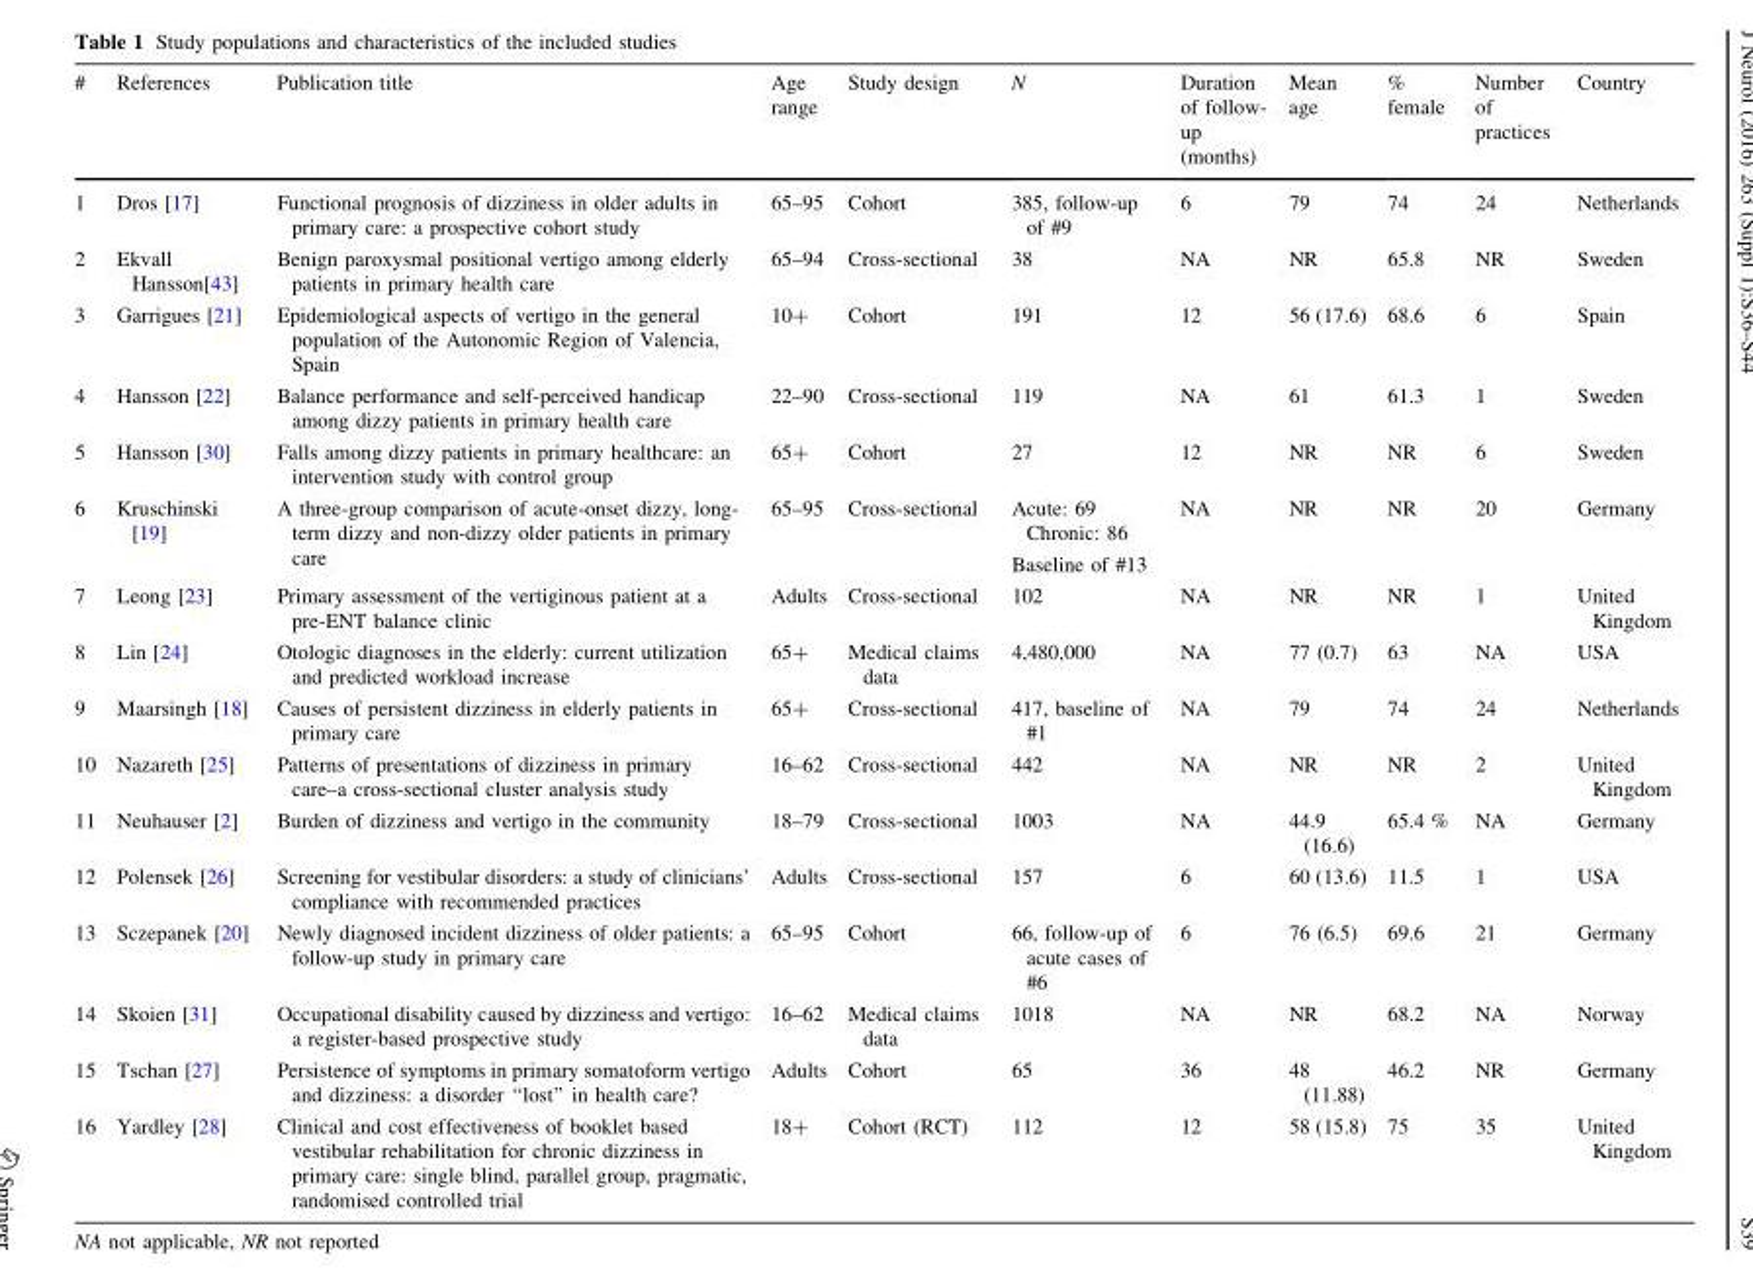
<table><thead><tr><td>#</td><td>References</td><td>Publication title</td><td>Age range</td><td>Study design</td><td>N</td><td>Duration of follow- up (months)</td><td>Mean age</td><td>% female</td><td>Number of practices</td><td>Country</td></tr></thead><tbody><tr><td>1</td><td>Dros [17]</td><td>Functional prognosis of dizziness in older adults in primary care: a prospective cohort study</td><td>65–95</td><td>Cohort</td><td>385, follow-up of #9</td><td>6</td><td>79</td><td>74</td><td>24</td><td>Netherlands</td></tr><tr><td>2</td><td>Ekvall Hansson[43]</td><td>Benign paroxysmal positional vertigo among elderly patients in primary health care</td><td>65–94</td><td>Cross-sectional</td><td>38</td><td>NA</td><td>NR</td><td>65.8</td><td>NR</td><td>Sweden</td></tr><tr><td>3</td><td>Garrigues [21]</td><td>Epidemiological aspects of vertigo in the general population of the Autonomic Region of Valencia, Spain</td><td>10+</td><td>Cohort</td><td>191</td><td>12</td><td>56 (17.6)</td><td>68.6</td><td>6</td><td>Spain</td></tr><tr><td>4</td><td>Hansson [22]</td><td>Balance performance and self-perceived handicap among dizzy patients in primary health care</td><td>22–90</td><td>Cross-sectional</td><td>119</td><td>NA</td><td>61</td><td>61.3</td><td>1</td><td>Sweden</td></tr><tr><td>5</td><td>Hansson [30]</td><td>Falls among dizzy patients in primary healthcare: an intervention study with control group</td><td>65+</td><td>Cohort</td><td>27</td><td>12</td><td>NR</td><td>NR</td><td>6</td><td>Sweden</td></tr><tr><td>6</td><td>Kruschinski [19]</td><td>A three-group comparison of acute-onset dizzy, long- term dizzy and non-dizzy older patients in primary care</td><td>65–95</td><td>Cross-sectional</td><td>Acute: 69 Chronic: 86 Baseline of #13</td><td>NA</td><td>NR</td><td>NR</td><td>20</td><td>Germany</td></tr><tr><td>7</td><td>Leong [23]</td><td>Primary assessment of the vertiginous patient at a pre-ENT balance clinic</td><td>Adults</td><td>Cross-sectional</td><td>102</td><td>NA</td><td>NR</td><td>NR</td><td>1</td><td>United Kingdom</td></tr><tr><td>8</td><td>Lin [24]</td><td>Otologic diagnoses in the elderly: current utilization and predicted workload increase</td><td>65+</td><td>Medical claims data</td><td>4,480,000</td><td>NA</td><td>77 (0.7)</td><td>63</td><td>NA</td><td>USA</td></tr><tr><td>9</td><td>Maarsingh [18]</td><td>Causes of persistent dizziness in elderly patients in primary care</td><td>65+</td><td>Cross-sectional</td><td>417, baseline of #1</td><td>NA</td><td>79</td><td>74</td><td>24</td><td>Netherlands</td></tr><tr><td>10</td><td>Nazareth [25]</td><td>Patterns of presentations of dizziness in primary care–a cross-sectional cluster analysis study</td><td>16–62</td><td>Cross-sectional</td><td>442</td><td>NA</td><td>NR</td><td>NR</td><td>2</td><td>United Kingdom</td></tr><tr><td>11</td><td>Neuhauser [2]</td><td>Burden of dizziness and vertigo in the community</td><td>18–79</td><td>Cross-sectional</td><td>1003</td><td>NA</td><td>44.9 (16.6)</td><td>65.4 %</td><td>NA</td><td>Germany</td></tr><tr><td>12</td><td>Polensek [26]</td><td>Screening for vestibular disorders: a study of clinicians’ compliance with recommended practices</td><td>Adults</td><td>Cross-sectional</td><td>157</td><td>6</td><td>60 (13.6)</td><td>11.5</td><td>1</td><td>USA</td></tr><tr><td>13</td><td>Sczepanek [20]</td><td>Newly diagnosed incident dizziness of older patients: a follow-up study in primary care</td><td>65–95</td><td>Cohort</td><td>66, follow-up of acute cases of #6</td><td>6</td><td>76 (6.5)</td><td>69.6</td><td>21</td><td>Germany</td></tr><tr><td>14</td><td>Skoien [31]</td><td>Occupational disability caused by dizziness and vertigo: a register-based prospective study</td><td>16–62</td><td>Medical claims data</td><td>1018</td><td>NA</td><td>NR</td><td>68.2</td><td>NA</td><td>Norway</td></tr><tr><td>15</td><td>Tschan [27]</td><td>Persistence of symptoms in primary somatoform vertigo and dizziness: a disorder ‘‘lost’’ in health care?</td><td>Adults</td><td>Cohort</td><td>65</td><td>36</td><td>48 (11.88)</td><td>46.2</td><td>NR</td><td>Germany</td></tr><tr><td>16</td><td>Yardley [28]</td><td>Clinical and cost effectiveness of booklet based vestibular rehabilitation for chronic dizziness in primary care: single blind, parallel group, pragmatic, randomised controlled trial</td><td>18+</td><td>Cohort (RCT)</td><td>112</td><td>12</td><td>58 (15.8)</td><td>75</td><td>35</td><td>United Kingdom</td></tr></tbody></table>